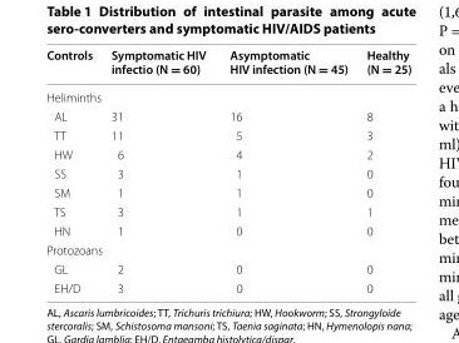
<table><thead><tr><td>Controls</td><td>Symptomatic HIV infectio (N = 60)</td><td>Asymptomatic HIV infection (N = 45)</td><td>Healthy (N = 25)</td></tr></thead><tbody><tr><td colspan="4">Heliminths</td></tr><tr><td>AL</td><td>31</td><td>16</td><td>8</td></tr><tr><td>TT</td><td>11</td><td>5</td><td>3</td></tr><tr><td>HW</td><td>6</td><td>4</td><td>2</td></tr><tr><td>SS</td><td>3</td><td>1</td><td>0</td></tr><tr><td>SM</td><td>1</td><td>1</td><td>0</td></tr><tr><td>TS</td><td>3</td><td>1</td><td>1</td></tr><tr><td>HN</td><td>1</td><td>0</td><td>0</td></tr><tr><td colspan="4">Protozoans</td></tr><tr><td>GL</td><td>2</td><td>0</td><td>0</td></tr><tr><td>EH/D</td><td>3</td><td>0</td><td>0</td></tr></tbody></table>